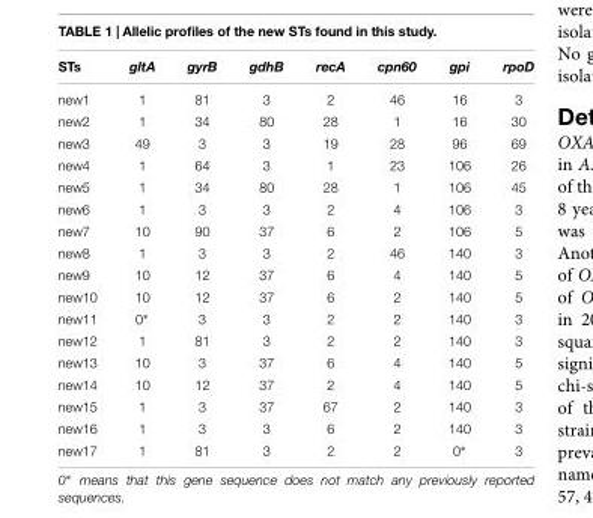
<table><thead><tr><td>STs</td><td>gltA</td><td>gyrB</td><td>gdhB</td><td>recA</td><td>cpn60</td><td>gpi</td><td>rpoD</td></tr></thead><tbody><tr><td>new1</td><td>1</td><td>81</td><td>3</td><td>2</td><td>46</td><td>16</td><td>3</td></tr><tr><td>new2</td><td>1</td><td>34</td><td>80</td><td>28</td><td>1</td><td>16</td><td>30</td></tr><tr><td>new3</td><td>49</td><td>3</td><td>3</td><td>19</td><td>28</td><td>96</td><td>69</td></tr><tr><td>new4</td><td>1</td><td>64</td><td>3</td><td>1</td><td>23</td><td>106</td><td>26</td></tr><tr><td>new5</td><td>1</td><td>34</td><td>80</td><td>28</td><td>1</td><td>106</td><td>45</td></tr><tr><td>new6</td><td>1</td><td>3</td><td>3</td><td>2</td><td>4</td><td>106</td><td>3</td></tr><tr><td>new7</td><td>10</td><td>90</td><td>37</td><td>6</td><td>2</td><td>106</td><td>5</td></tr><tr><td>new8</td><td>1</td><td>3</td><td>3</td><td>2</td><td>46</td><td>140</td><td>3</td></tr><tr><td>new9</td><td>10</td><td>12</td><td>37</td><td>6</td><td>4</td><td>140</td><td>5</td></tr><tr><td>new10</td><td>10</td><td>12</td><td>37</td><td>6</td><td>2</td><td>140</td><td>5</td></tr><tr><td>new11</td><td>0∗</td><td>3</td><td>3</td><td>2</td><td>2</td><td>140</td><td>3</td></tr><tr><td>new12</td><td>1</td><td>81</td><td>3</td><td>2</td><td>2</td><td>140</td><td>3</td></tr><tr><td>new13</td><td>10</td><td>3</td><td>37</td><td>6</td><td>4</td><td>140</td><td>5</td></tr><tr><td>new14</td><td>10</td><td>12</td><td>37</td><td>2</td><td>4</td><td>140</td><td>5</td></tr><tr><td>new15</td><td>1</td><td>3</td><td>37</td><td>67</td><td>2</td><td>140</td><td>3</td></tr><tr><td>new16</td><td>1</td><td>3</td><td>3</td><td>6</td><td>2</td><td>140</td><td>3</td></tr><tr><td>new17</td><td>1</td><td>81</td><td>3</td><td>2</td><td>2</td><td>0∗</td><td>3</td></tr></tbody></table>